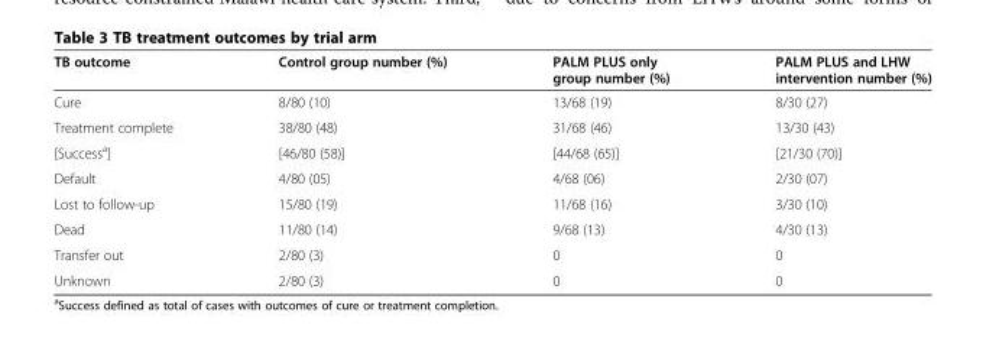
<table><thead><tr><td>TB outcome</td><td>Control group number (%)</td><td>PALM PLUS only group number (%)</td><td>PALM PLUS and LHW intervention number (%)</td></tr></thead><tbody><tr><td>Cure</td><td>8/80 (10)</td><td>13/68 (19)</td><td>8/30 (27)</td></tr><tr><td>Treatment complete</td><td>38/80 (48)</td><td>31/68 (46)</td><td>13/30 (43)</td></tr><tr><td>[Success<sup>a</sup>]</td><td>[46/80 (58)]</td><td>[44/68 (65)]</td><td>[21/30 (70)]</td></tr><tr><td>Default</td><td>4/80 (05)</td><td>4/68 (06)</td><td>2/30 (07)</td></tr><tr><td>Lost to follow-up</td><td>15/80 (19)</td><td>11/68 (16)</td><td>3/30 (10)</td></tr><tr><td>Dead</td><td>11/80 (14)</td><td>9/68 (13)</td><td>4/30 (13)</td></tr><tr><td>Transfer out</td><td>2/80 (3)</td><td>0</td><td>0</td></tr><tr><td>Unknown</td><td>2/80 (3)</td><td>0</td><td>0</td></tr></tbody></table>